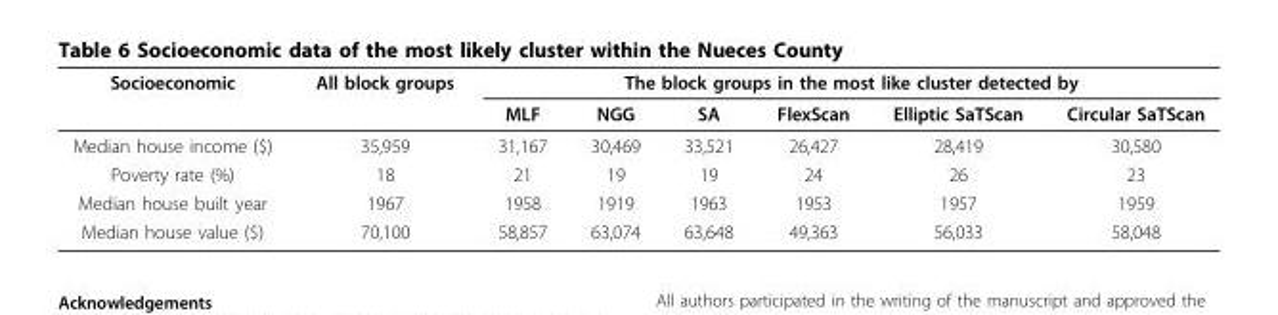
<table><thead><tr><td rowspan="2">Socioeconomic</td><td rowspan="2">All block groups</td><td colspan="6">The block groups in the most like cluster detected by</td></tr><tr><td>MLF</td><td>NGG</td><td>SA</td><td>FlexScan</td><td>Elliptic SaTScan</td><td>Circular SaTScan</td></tr></thead><tbody><tr><td>Median house income ($)</td><td>35,959</td><td>31,167</td><td>30,469</td><td>33,521</td><td>26,427</td><td>28,419</td><td>30,580</td></tr><tr><td>Poverty rate (%)</td><td>18</td><td>21</td><td>19</td><td>19</td><td>24</td><td>26</td><td>23</td></tr><tr><td>Median house built year</td><td>1967</td><td>1958</td><td>1919</td><td>1963</td><td>1953</td><td>1957</td><td>1959</td></tr><tr><td>Median house value ($)</td><td>70,100</td><td>58,857</td><td>63,074</td><td>63,648</td><td>49,363</td><td>56,033</td><td>58,048</td></tr></tbody></table>